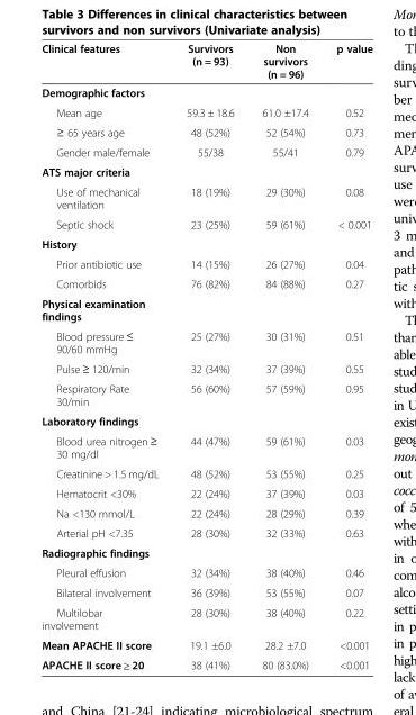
<table><thead><tr><td>Clinical features</td><td>Survivors (n = 93)</td><td>Non survivors (n = 96)</td><td>p value</td></tr></thead><tbody><tr><td colspan="4">Demographic factors</td></tr><tr><td>Mean age</td><td>59.3 ± 18.6</td><td>61.0 ±17.4</td><td>0.52</td></tr><tr><td>≥ 65 years age</td><td>48 (52%)</td><td>52 (54%)</td><td>0.73</td></tr><tr><td>Gender male/female</td><td>55/38</td><td>55/41</td><td>0.79</td></tr><tr><td colspan="4">ATS major criteria</td></tr><tr><td>Use of mechanical ventilation</td><td>18 (19%)</td><td>29 (30%)</td><td>0.08</td></tr><tr><td>Septic shock</td><td>23 (25%)</td><td>59 (61%)</td><td>&lt; 0.001</td></tr><tr><td colspan="4">History</td></tr><tr><td>Prior antibiotic use</td><td>14 (15%)</td><td>26 (27%)</td><td>0.04</td></tr><tr><td>Comorbids</td><td>76 (82%)</td><td>84 (88%)</td><td>0.27</td></tr><tr><td colspan="4">Physical examination findings</td></tr><tr><td>Blood pressure ≤ 90/60 mmHg</td><td>25 (27%)</td><td>30 (31%)</td><td>0.51</td></tr><tr><td>Pulse ≥ 120/min</td><td>32 (34%)</td><td>37 (39%)</td><td>0.55</td></tr><tr><td>Respiratory Rate 30/min</td><td>56 (60%)</td><td>57 (59%)</td><td>0.95</td></tr><tr><td colspan="4">Laboratory findings</td></tr><tr><td>Blood urea nitrogen ≥ 30 mg/dl</td><td>44 (47%)</td><td>59 (61%)</td><td>0.03</td></tr><tr><td>Creatinine &gt; 1.5 mg/dL</td><td>48 (52%)</td><td>53 (55%)</td><td>0.25</td></tr><tr><td>Hematocrit &lt;30%</td><td>22 (24%)</td><td>37 (39%)</td><td>0.03</td></tr><tr><td>Na &lt;130 mmol/L</td><td>22 (24%)</td><td>28 (29%)</td><td>0.39</td></tr><tr><td>Arterial pH &lt;7.35</td><td>28 (30%)</td><td>32 (33%)</td><td>0.63</td></tr><tr><td colspan="4">Radiographic findings</td></tr><tr><td>Pleural effusion</td><td>32 (34%)</td><td>38 (40%)</td><td>0.46</td></tr><tr><td>Bilateral involvement</td><td>36 (39%)</td><td>53 (55%)</td><td>0.07</td></tr><tr><td>Multilobar involvement</td><td>28 (30%)</td><td>38 (40%)</td><td>0.22</td></tr><tr><td>Mean APACHE II score</td><td>19.1 ±6.0</td><td>28.2 ±7.0</td><td>&lt;0.001</td></tr><tr><td>APACHE II score ≥ 20</td><td>38 (41%)</td><td>80 (83.0%)</td><td>&lt;0.001</td></tr></tbody></table>